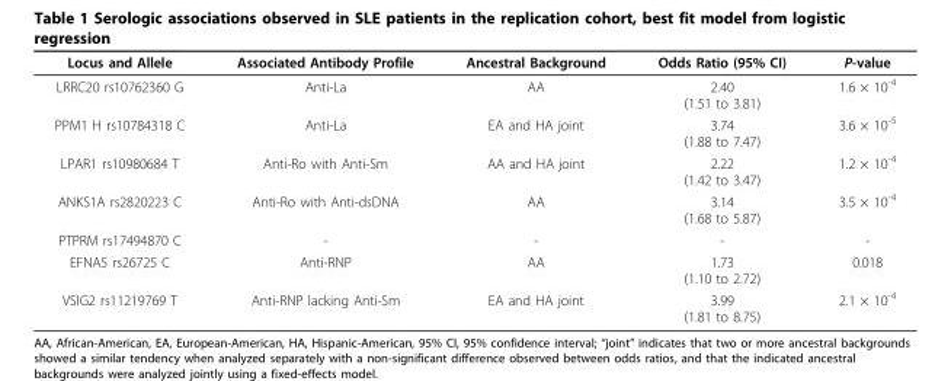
<table><thead><tr><td>Locus and Allele</td><td>Associated Antibody Profile</td><td>Ancestral Background</td><td>Odds Ratio (95% CI)</td><td>P-value</td></tr></thead><tbody><tr><td>LRRC20 rs10762360 G</td><td>Anti-La</td><td>AA</td><td>2.40 (1.51 to 3.81)</td><td>1.6 × 10<sup>-4</sup></td></tr><tr><td>PPM1 H rs10784318 C</td><td>Anti-La</td><td>EA and HA joint</td><td>3.74 (1.88 to 7.47)</td><td>3.6 × 10<sup>-5</sup></td></tr><tr><td>LPAR1 rs10980684 T</td><td>Anti-Ro with Anti-Sm</td><td>AA and HA joint</td><td>2.22 (1.42 to 3.47)</td><td>1.2 × 10<sup>-4</sup></td></tr><tr><td>ANKS1A rs2820223 C</td><td>Anti-Ro with Anti-dsDNA</td><td>AA</td><td>3.14 (1.68 to 5.87)</td><td>3.5 × 10<sup>-4</sup></td></tr><tr><td>PTPRM rs17494870 C</td><td>-</td><td>-</td><td>-</td><td>-</td></tr><tr><td>EFNA5 rs26725 C</td><td>Anti-RNP</td><td>AA</td><td>1.73 (1.10 to 2.72)</td><td>0.018</td></tr><tr><td>VSIG2 rs11219769 T</td><td>Anti-RNP lacking Anti-Sm</td><td>EA and HA joint</td><td>3.99 (1.81 to 8.75)</td><td>2.1 × 10<sup>-4</sup></td></tr></tbody></table>